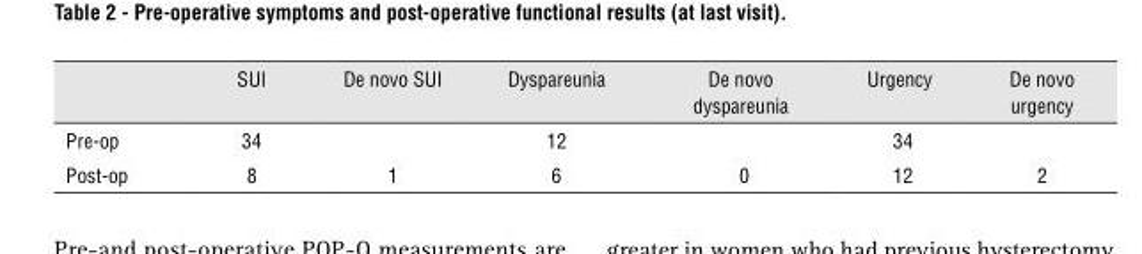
<table><thead><tr><td></td><td>SUI</td><td>De novo SUI</td><td>Dyspareunia</td><td>De novo dyspareunia</td><td>Urgency</td><td>De novo urgency</td></tr></thead><tbody><tr><td>Pre-op</td><td>34</td><td></td><td>12</td><td></td><td>34</td><td></td></tr><tr><td>Post-op</td><td>8</td><td>1</td><td>6</td><td>0</td><td>12</td><td>2</td></tr></tbody></table>